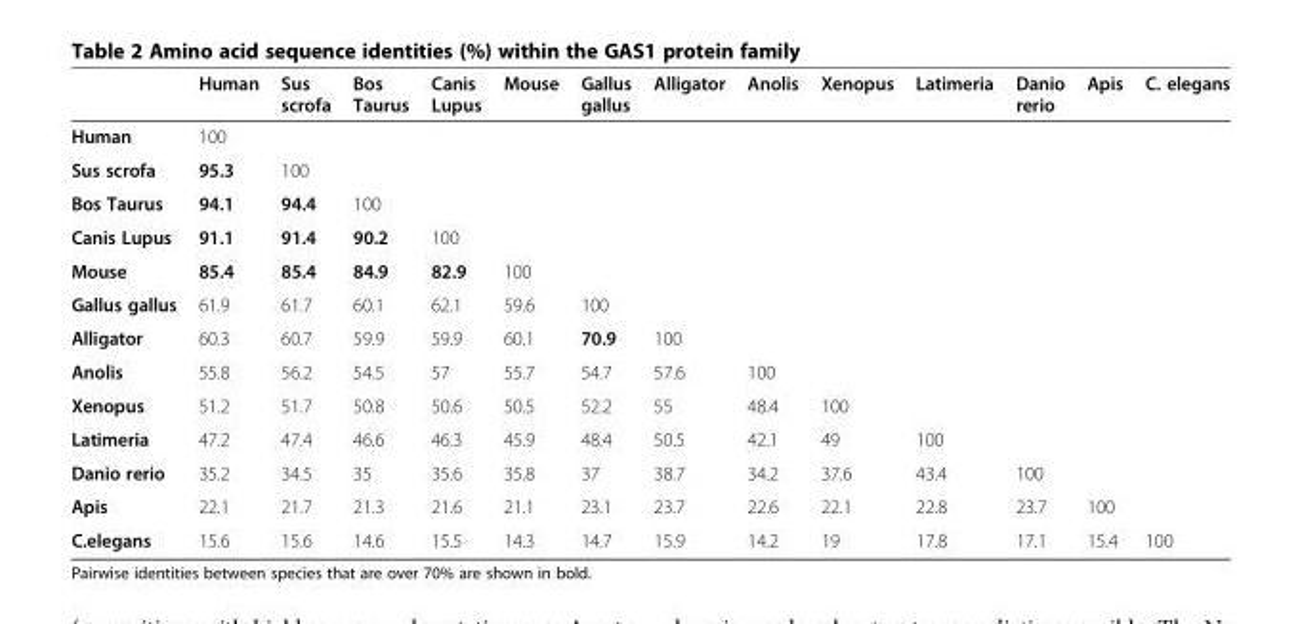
<table><thead><tr><td></td><td>Human</td><td>Sus scrofa</td><td>Bos Taurus</td><td>Canis Lupus</td><td>Mouse</td><td>Gallus gallus</td><td>Alligator</td><td>Anolis</td><td>Xenopus</td><td>Latimeria</td><td>Danio rerio</td><td>Apis</td><td>C. elegans</td></tr></thead><tbody><tr><td>Human</td><td>100</td><td></td><td></td><td></td><td></td><td></td><td></td><td></td><td></td><td></td><td></td><td></td><td></td></tr><tr><td>Sus scrofa</td><td>95.3</td><td>100</td><td></td><td></td><td></td><td></td><td></td><td></td><td></td><td></td><td></td><td></td><td></td></tr><tr><td>Bos Taurus</td><td>94.1</td><td>94.4</td><td>100</td><td></td><td></td><td></td><td></td><td></td><td></td><td></td><td></td><td></td><td></td></tr><tr><td>Canis Lupus</td><td>91.1</td><td>91.4</td><td>90.2</td><td>100</td><td></td><td></td><td></td><td></td><td></td><td></td><td></td><td></td><td></td></tr><tr><td>Mouse</td><td>85.4</td><td>85.4</td><td>84.9</td><td>82.9</td><td>100</td><td></td><td></td><td></td><td></td><td></td><td></td><td></td><td></td></tr><tr><td>Gallus gallus</td><td>61.9</td><td>61.7</td><td>60.1</td><td>62.1</td><td>59.6</td><td>100</td><td></td><td></td><td></td><td></td><td></td><td></td><td></td></tr><tr><td>Alligator</td><td>60.3</td><td>60.7</td><td>59.9</td><td>59.9</td><td>60.1</td><td>70.9</td><td>100</td><td></td><td></td><td></td><td></td><td></td><td></td></tr><tr><td>Anolis</td><td>55.8</td><td>56.2</td><td>54.5</td><td>57</td><td>55.7</td><td>54.7</td><td>57.6</td><td>100</td><td></td><td></td><td></td><td></td><td></td></tr><tr><td>Xenopus</td><td>51.2</td><td>51.7</td><td>50.8</td><td>50.6</td><td>50.5</td><td>52.2</td><td>55</td><td>48.4</td><td>100</td><td></td><td></td><td></td><td></td></tr><tr><td>Latimeria</td><td>47.2</td><td>47.4</td><td>46.6</td><td>46.3</td><td>45.9</td><td>48.4</td><td>50.5</td><td>42.1</td><td>49</td><td>100</td><td></td><td></td><td></td></tr><tr><td>Danio rerio</td><td>35.2</td><td>34.5</td><td>35</td><td>35.6</td><td>35.8</td><td>37</td><td>38.7</td><td>34.2</td><td>37.6</td><td>43.4</td><td>100</td><td></td><td></td></tr><tr><td>Apis</td><td>22.1</td><td>21.7</td><td>21.3</td><td>21.6</td><td>21.1</td><td>23.1</td><td>23.7</td><td>22.6</td><td>22.1</td><td>22.8</td><td>23.7</td><td>100</td><td></td></tr><tr><td>C.elegans</td><td>15.6</td><td>15.6</td><td>14.6</td><td>15.5</td><td>14.3</td><td>14.7</td><td>15.9</td><td>14.2</td><td>19</td><td>17.8</td><td>17.1</td><td>15.4</td><td>100</td></tr></tbody></table>